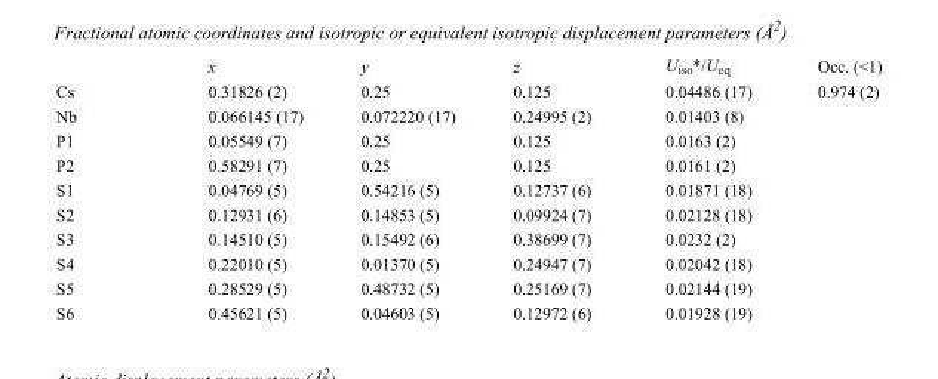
<table><thead><tr><td></td><td>x</td><td>y</td><td>z</td><td>U<sub>iso</sub>*/U<sub>eq</sub></td><td>Occ. (&lt;1)</td></tr></thead><tbody><tr><td>Cs</td><td>0.31826 (2)</td><td>0.25</td><td>0.125</td><td>0.04486 (17)</td><td>0.974 (2)</td></tr><tr><td>Nb</td><td>0.066145 (17)</td><td>0.072220 (17)</td><td>0.24995 (2)</td><td>0.01403 (8)</td><td></td></tr><tr><td>P1</td><td>0.05549 (7)</td><td>0.25</td><td>0.125</td><td>0.0163 (2)</td><td></td></tr><tr><td>P2</td><td>0.58291 (7)</td><td>0.25</td><td>0.125</td><td>0.0161 (2)</td><td></td></tr><tr><td>S1</td><td>0.04769 (5)</td><td>0.54216 (5)</td><td>0.12737 (6)</td><td>0.01871 (18)</td><td></td></tr><tr><td>S2</td><td>0.12931 (6)</td><td>0.14853 (5)</td><td>0.09924 (7)</td><td>0.02128 (18)</td><td></td></tr><tr><td>S3</td><td>0.14510 (5)</td><td>0.15492 (6)</td><td>0.38699 (7)</td><td>0.0232 (2)</td><td></td></tr><tr><td>S4</td><td>0.22010 (5)</td><td>0.01370 (5)</td><td>0.24947 (7)</td><td>0.02042 (18)</td><td></td></tr><tr><td>S5</td><td>0.28529 (5)</td><td>0.48732 (5)</td><td>0.25169 (7)</td><td>0.02144 (19)</td><td></td></tr><tr><td>S6</td><td>0.45621 (5)</td><td>0.04603 (5)</td><td>0.12972 (6)</td><td>0.01928 (19)</td><td></td></tr></tbody></table>